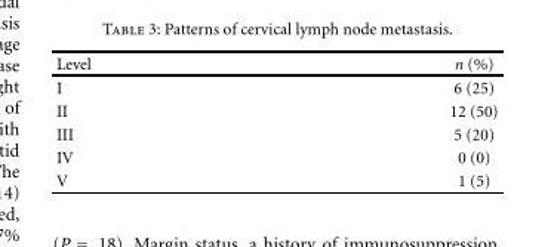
<table><thead><tr><td>Level</td><td>n (%)</td></tr></thead><tbody><tr><td>I</td><td>6 (25)</td></tr><tr><td>II</td><td>12 (50)</td></tr><tr><td>III</td><td>5 (20)</td></tr><tr><td>IV</td><td>0 (0)</td></tr><tr><td>V</td><td>1 (5)</td></tr></tbody></table>